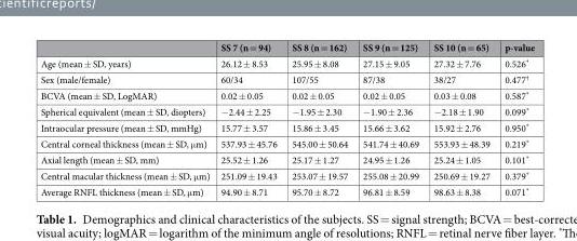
<table><thead><tr><td></td><td>SS 7 (n = 94)</td><td>SS 8 (n = 162)</td><td>SS 9 (n = 125)</td><td>SS 10 (n = 65)</td><td>p-value</td></tr></thead><tbody><tr><td>Age (mean ± SD, years)</td><td>26.12 ± 8.53</td><td>25.95 ± 8.08</td><td>27.15 ± 9.05</td><td>27.32 ± 7.76</td><td>0.526*</td></tr><tr><td>Sex (male/female)</td><td>60/34</td><td>107/55</td><td>87/38</td><td>38/27</td><td>0.477<sup>†</sup></td></tr><tr><td>BCVA (mean ± SD, LogMAR)</td><td>0.02 ± 0.05</td><td>0.02 ± 0.05</td><td>0.02 ± 0.05</td><td>0.03 ± 0.08</td><td>0.587*</td></tr><tr><td>Spherical equivalent (mean ± SD, diopters)</td><td>−2.44 ± 2.25</td><td>−1.95 ± 2.30</td><td>−1.90 ± 2.36</td><td>−2.18 ± 1.90</td><td>0.099*</td></tr><tr><td>Intraocular pressure (mean ± SD, mmHg)</td><td>15.77 ± 3.57</td><td>15.86 ± 3.45</td><td>15.66 ± 3.62</td><td>15.92 ± 2.76</td><td>0.950*</td></tr><tr><td>Central corneal thickness (mean ± SD, μm)</td><td>537.93 ± 45.76</td><td>545.00 ± 50.64</td><td>541.74 ± 40.69</td><td>553.93 ± 48.39</td><td>0.219*</td></tr><tr><td>Axial length (mean ± SD, mm)</td><td>25.52 ± 1.26</td><td>25.17 ± 1.27</td><td>24.95 ± 1.26</td><td>25.24 ± 1.05</td><td>0.101*</td></tr><tr><td>Central macular thickness (mean ± SD, μm)</td><td>251.09 ± 19.43</td><td>253.07 ± 19.57</td><td>255.08 ± 20.99</td><td>250.69 ± 19.27</td><td>0.379*</td></tr><tr><td>Average RNFL thickness (mean ± SD, μm)</td><td>94.90 ± 8.71</td><td>95.70 ± 8.72</td><td>96.81 ± 8.59</td><td>98.63 ± 8.38</td><td>0.071*</td></tr></tbody></table>